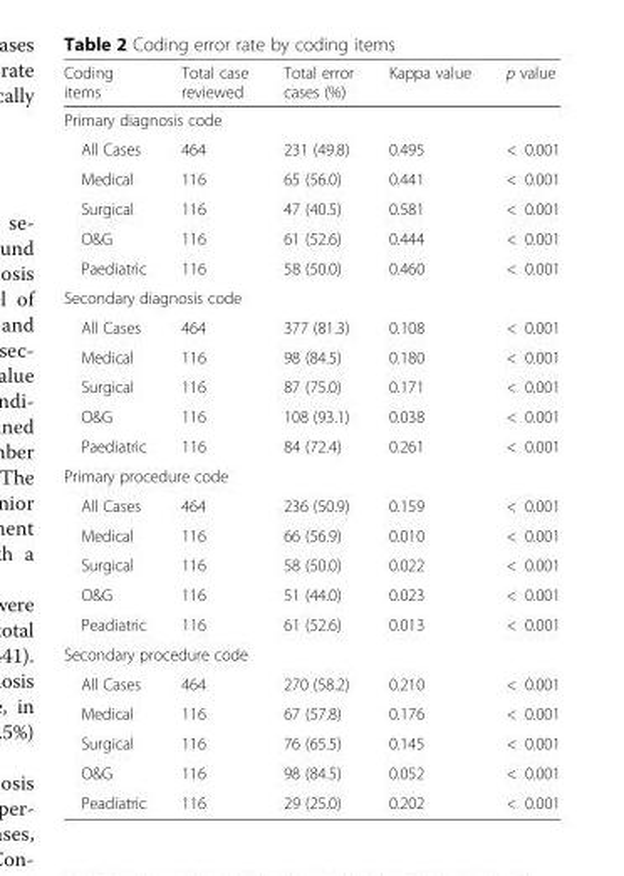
<table><thead><tr><td>Coding items</td><td>Total case reviewed</td><td>Total error cases (%)</td><td>Kappa value</td><td>p value</td></tr></thead><tbody><tr><td colspan="5">Primary diagnosis code</td></tr><tr><td>All Cases</td><td>464</td><td>231 (49.8)</td><td>0.495</td><td>&lt; 0.001</td></tr><tr><td>Medical</td><td>116</td><td>65 (56.0)</td><td>0.441</td><td>&lt; 0.001</td></tr><tr><td>Surgical</td><td>116</td><td>47 (40.5)</td><td>0.581</td><td>&lt; 0.001</td></tr><tr><td>O&amp;G</td><td>116</td><td>61 (52.6)</td><td>0.444</td><td>&lt; 0.001</td></tr><tr><td>Paediatric</td><td>116</td><td>58 (50.0)</td><td>0.460</td><td>&lt; 0.001</td></tr><tr><td colspan="5">Secondary diagnosis code</td></tr><tr><td>All Cases</td><td>464</td><td>377 (81.3)</td><td>0.108</td><td>&lt; 0.001</td></tr><tr><td>Medical</td><td>116</td><td>98 (84.5)</td><td>0.180</td><td>&lt; 0.001</td></tr><tr><td>Surgical</td><td>116</td><td>87 (75.0)</td><td>0.171</td><td>&lt; 0.001</td></tr><tr><td>O&amp;G</td><td>116</td><td>108 (93.1)</td><td>0.038</td><td>&lt; 0.001</td></tr><tr><td>Paediatric</td><td>116</td><td>84 (72.4)</td><td>0.261</td><td>&lt; 0.001</td></tr><tr><td colspan="5">Primary procedure code</td></tr><tr><td>All Cases</td><td>464</td><td>236 (50.9)</td><td>0.159</td><td>&lt; 0.001</td></tr><tr><td>Medical</td><td>116</td><td>66 (56.9)</td><td>0.010</td><td>&lt; 0.001</td></tr><tr><td>Surgical</td><td>116</td><td>58 (50.0)</td><td>0.022</td><td>&lt; 0.001</td></tr><tr><td>O&amp;G</td><td>116</td><td>51 (44.0)</td><td>0.023</td><td>&lt; 0.001</td></tr><tr><td>Peadiatric</td><td>116</td><td>61 (52.6)</td><td>0.013</td><td>&lt; 0.001</td></tr><tr><td colspan="5">Secondary procedure code</td></tr><tr><td>All Cases</td><td>464</td><td>270 (58.2)</td><td>0.210</td><td>&lt; 0.001</td></tr><tr><td>Medical</td><td>116</td><td>67 (57.8)</td><td>0.176</td><td>&lt; 0.001</td></tr><tr><td>Surgical</td><td>116</td><td>76 (65.5)</td><td>0.145</td><td>&lt; 0.001</td></tr><tr><td>O&amp;G</td><td>116</td><td>98 (84.5)</td><td>0.052</td><td>&lt; 0.001</td></tr><tr><td>Peadiatric</td><td>116</td><td>29 (25.0)</td><td>0.202</td><td>&lt; 0.001</td></tr></tbody></table>